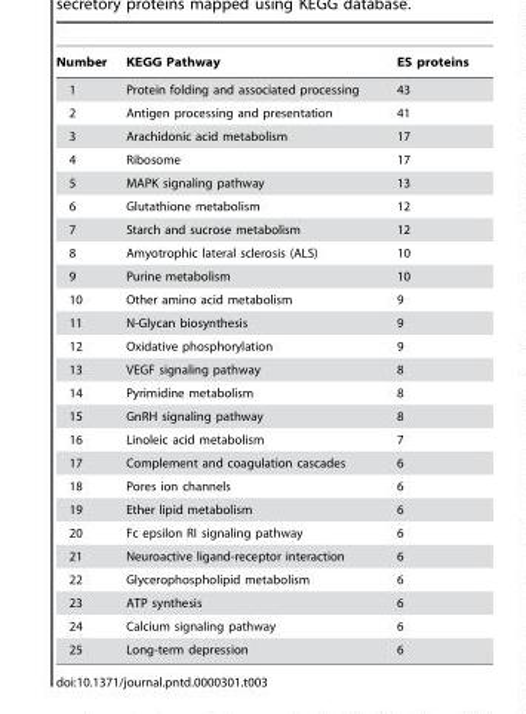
<table><thead><tr><td>Number</td><td>KEGG Pathway</td><td>ES proteins</td></tr></thead><tbody><tr><td>1</td><td>Protein folding and associated processing</td><td>43</td></tr><tr><td>2</td><td>Antigen processing and presentation</td><td>41</td></tr><tr><td>3</td><td>Arachidonic acid metabolism</td><td>17</td></tr><tr><td>4</td><td>Ribosome</td><td>17</td></tr><tr><td>5</td><td>MAPK signaling pathway</td><td>13</td></tr><tr><td>6</td><td>Glutathione metabolism</td><td>12</td></tr><tr><td>7</td><td>Starch and sucrose metabolism</td><td>12</td></tr><tr><td>8</td><td>Amyotrophic lateral sclerosis (ALS)</td><td>10</td></tr><tr><td>9</td><td>Purine metabolism</td><td>10</td></tr><tr><td>10</td><td>Other amino acid metabolism</td><td>9</td></tr><tr><td>11</td><td>N-Glycan biosynthesis</td><td>9</td></tr><tr><td>12</td><td>Oxidative phosphorylation</td><td>9</td></tr><tr><td>13</td><td>VEGF signaling pathway</td><td>8</td></tr><tr><td>14</td><td>Pyrimidine metabolism</td><td>8</td></tr><tr><td>15</td><td>GnRH signaling pathway</td><td>8</td></tr><tr><td>16</td><td>Linoleic acid metabolism</td><td>7</td></tr><tr><td>17</td><td>Complement and coagulation cascades</td><td>6</td></tr><tr><td>18</td><td>Pores ion channels</td><td>6</td></tr><tr><td>19</td><td>Ether lipid metabolism</td><td>6</td></tr><tr><td>20</td><td>Fc epsilon RI signaling pathway</td><td>6</td></tr><tr><td>21</td><td>Neuroactive ligand-receptor interaction</td><td>6</td></tr><tr><td>22</td><td>Glycerophospholipid metabolism</td><td>6</td></tr><tr><td>23</td><td>ATP synthesis</td><td>6</td></tr><tr><td>24</td><td>Calcium signaling pathway</td><td>6</td></tr><tr><td>25</td><td>Long-term depression</td><td>6</td></tr></tbody></table>